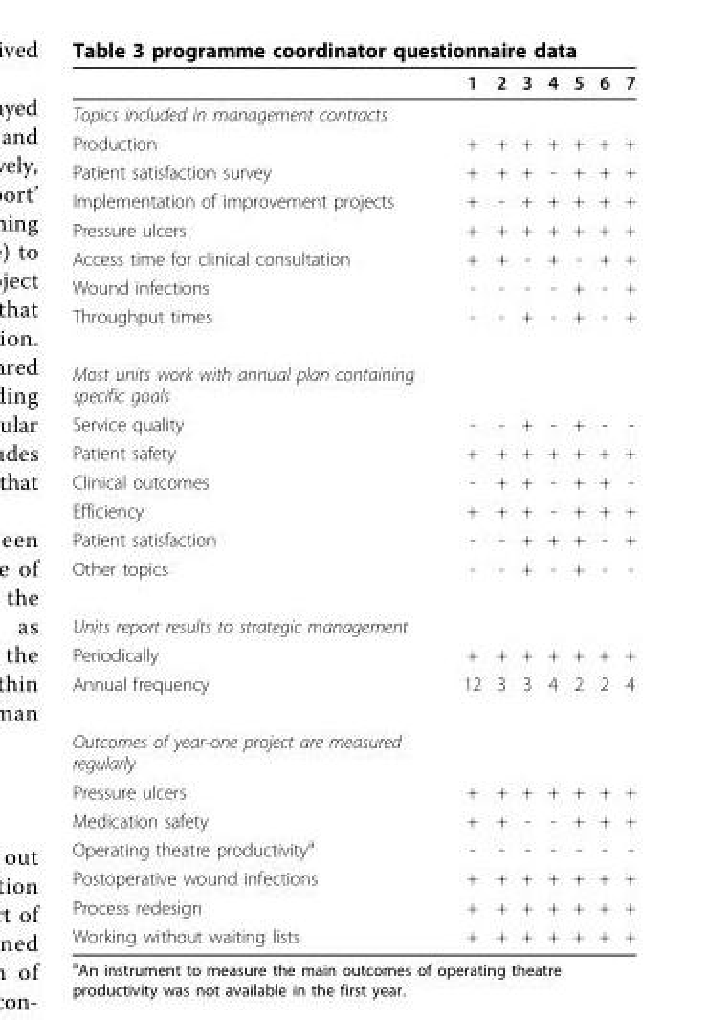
<table><thead><tr><td></td><td>1</td><td>2</td><td>3</td><td>4</td><td>5</td><td>6</td><td>7</td></tr></thead><tbody><tr><td colspan="8">Topics included in management contracts</td></tr><tr><td>Production</td><td>+</td><td>+</td><td>+</td><td>+</td><td>+</td><td>+</td><td>+</td></tr><tr><td>Patient satisfaction survey</td><td>+</td><td>+</td><td>+</td><td>-</td><td>+</td><td>+</td><td>+</td></tr><tr><td>Implementation of improvement projects</td><td>+</td><td>-</td><td>+</td><td>+</td><td>+</td><td>+</td><td>+</td></tr><tr><td>Pressure ulcers</td><td>+</td><td>+</td><td>+</td><td>+</td><td>+</td><td>+</td><td>+</td></tr><tr><td>Access time for clinical consultation</td><td>+</td><td>+</td><td>-</td><td>+</td><td>-</td><td>+</td><td>+</td></tr><tr><td>Wound infections</td><td>-</td><td>-</td><td>-</td><td>-</td><td>+</td><td>-</td><td>+</td></tr><tr><td>Throughput times</td><td>-</td><td>-</td><td>+</td><td>-</td><td>+</td><td>-</td><td>+</td></tr><tr><td colspan="8">Most units work with annual plan containing specific goals</td></tr><tr><td>Service quality</td><td>-</td><td>-</td><td>+</td><td>-</td><td>+</td><td>-</td><td>-</td></tr><tr><td>Patient safety</td><td>+</td><td>+</td><td>+</td><td>+</td><td>+</td><td>+</td><td>+</td></tr><tr><td>Clinical outcomes</td><td>-</td><td>+</td><td>+</td><td>-</td><td>+</td><td>+</td><td>-</td></tr><tr><td>Efficiency</td><td>+</td><td>+</td><td>+</td><td>-</td><td>+</td><td>+</td><td>+</td></tr><tr><td>Patient satisfaction</td><td>-</td><td>-</td><td>+</td><td>+</td><td>+</td><td>-</td><td>+</td></tr><tr><td>Other topics</td><td>-</td><td>-</td><td>+</td><td>-</td><td>+</td><td>-</td><td>-</td></tr><tr><td colspan="8">Units report results to strategic management</td></tr><tr><td>Periodically</td><td>+</td><td>+</td><td>+</td><td>+</td><td>+</td><td>+</td><td>+</td></tr><tr><td>Annual frequency</td><td>12</td><td>3</td><td>3</td><td>4</td><td>2</td><td>2</td><td>4</td></tr><tr><td colspan="8">Outcomes of year-one project are measured regularly</td></tr><tr><td>Pressure ulcers</td><td>+</td><td>+</td><td>+</td><td>+</td><td>+</td><td>+</td><td>+</td></tr><tr><td>Medication safety</td><td>+</td><td>+</td><td>-</td><td>-</td><td>+</td><td>+</td><td>+</td></tr><tr><td>Operating theatre productivity<sup>a</sup></td><td>-</td><td>-</td><td>-</td><td>-</td><td>-</td><td>-</td><td>-</td></tr><tr><td>Postoperative wound infections</td><td>+</td><td>+</td><td>+</td><td>+</td><td>+</td><td>+</td><td>+</td></tr><tr><td>Process redesign</td><td>+</td><td>+</td><td>+</td><td>+</td><td>+</td><td>+</td><td>+</td></tr><tr><td>Working without waiting lists</td><td>+</td><td>+</td><td>+</td><td>+</td><td>+</td><td>+</td><td>+</td></tr></tbody></table>